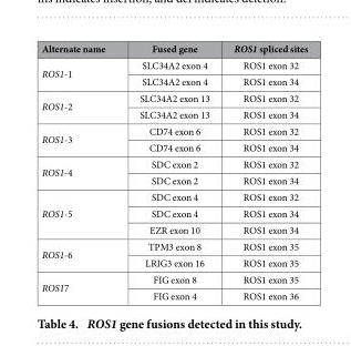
<table><thead><tr><td>Alternate name</td><td>Fused gene</td><td>ROS1 spliced sites</td></tr></thead><tbody><tr><td rowspan="2">ROS1-1</td><td>SLC34A2 exon 4</td><td>ROS1 exon 32</td></tr><tr><td>SLC34A2 exon 4</td><td>ROS1 exon 34</td></tr><tr><td rowspan="2">ROS1-2</td><td>SLC34A2 exon 13</td><td>ROS1 exon 32</td></tr><tr><td>SLC34A2 exon 13</td><td>ROS1 exon 34</td></tr><tr><td rowspan="2">ROS1-3</td><td>CD74 exon 6</td><td>ROS1 exon 32</td></tr><tr><td>CD74 exon 6</td><td>ROS1 exon 34</td></tr><tr><td rowspan="2">ROS1-4</td><td>SDC exon 2</td><td>ROS1 exon 32</td></tr><tr><td>SDC exon 2</td><td>ROS1 exon 34</td></tr><tr><td rowspan="3">ROS1-5</td><td>SDC exon 4</td><td>ROS1 exon 32</td></tr><tr><td>SDC exon 4</td><td>ROS1 exon 34</td></tr><tr><td>EZR exon 10</td><td>ROS1 exon 34</td></tr><tr><td rowspan="2">ROS1-6</td><td>TPM3 exon 8</td><td>ROS1 exon 35</td></tr><tr><td>LRIG3 exon 16</td><td>ROS1 exon 35</td></tr><tr><td rowspan="2">ROS17</td><td>FIG exon 8</td><td>ROS1 exon 35</td></tr><tr><td>FIG exon 4</td><td>ROS1 exon 36</td></tr></tbody></table>